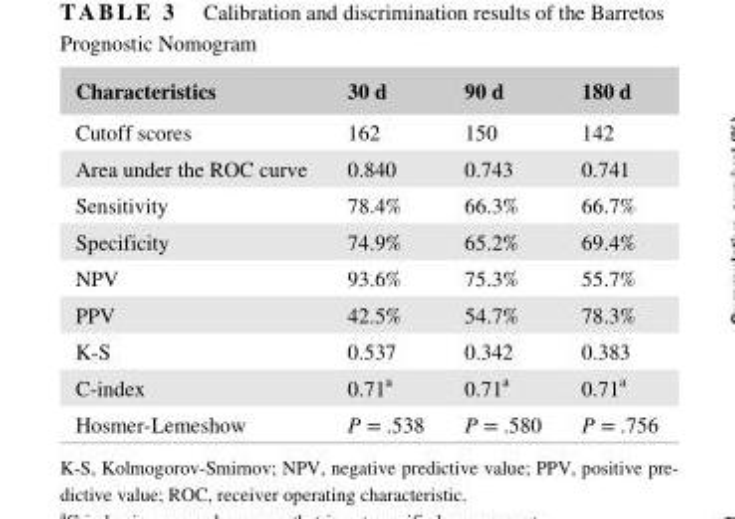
<table><thead><tr><td>Characteristics</td><td>30 d</td><td>90 d</td><td>180 d</td></tr></thead><tbody><tr><td>Cutoff scores</td><td>162</td><td>150</td><td>142</td></tr><tr><td>Area under the ROC curve</td><td>0.840</td><td>0.743</td><td>0.741</td></tr><tr><td>Sensitivity</td><td>78.4%</td><td>66.3%</td><td>66.7%</td></tr><tr><td>Specificity</td><td>74.9%</td><td>65.2%</td><td>69.4%</td></tr><tr><td>NPV</td><td>93.6%</td><td>75.3%</td><td>55.7%</td></tr><tr><td>PPV</td><td>42.5%</td><td>54.7%</td><td>78.3%</td></tr><tr><td>K- S</td><td>0.537</td><td>0.342</td><td>0.383</td></tr><tr><td>C- index</td><td>0.71<sup>a</sup></td><td>0.71<sup>a</sup></td><td>0.71<sup>a</sup></td></tr><tr><td>Hosmer- Lemeshow</td><td>P = .538</td><td>P = .580</td><td>P = .756</td></tr></tbody></table>